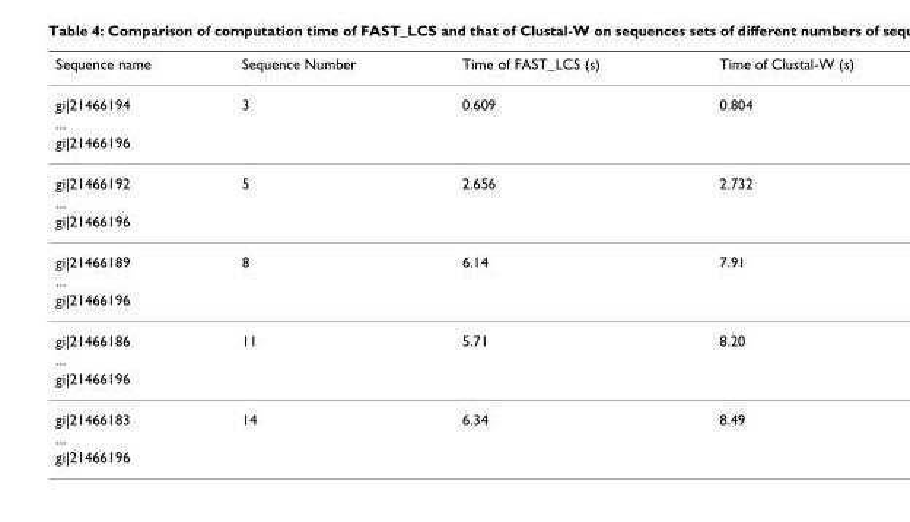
<table><thead><tr><td>Sequence name</td><td>Sequence Number</td><td>Time of FAST_LCS (s)</td><td>Time of Clustal-W (s)</td></tr></thead><tbody><tr><td>gi|21466194</td><td>3</td><td>0.609</td><td>0.804</td></tr><tr><td colspan="4">...</td></tr><tr><td colspan="4">gi|21466196</td></tr><tr><td>gi|21466192</td><td>5</td><td>2.656</td><td>2.732</td></tr><tr><td colspan="4">...</td></tr><tr><td colspan="4">gi|21466196</td></tr><tr><td>gi|21466189</td><td>8</td><td>6.14</td><td>7.91</td></tr><tr><td colspan="4">...</td></tr><tr><td colspan="4">gi|21466196</td></tr><tr><td>gi|21466186</td><td>11</td><td>5.71</td><td>8.20</td></tr><tr><td colspan="4">...</td></tr><tr><td colspan="4">gi|21466196</td></tr><tr><td>gi|21466183</td><td>14</td><td>6.34</td><td>8.49</td></tr><tr><td colspan="4">...</td></tr><tr><td>gi|21466196</td><td></td><td></td><td></td></tr></tbody></table>